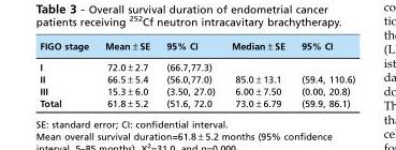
<table><thead><tr><td>FIGO stage</td><td>Mean±SE</td><td>95% CI</td><td>Median±SE</td><td>95% CI</td></tr></thead><tbody><tr><td>I</td><td>72.0±2.7</td><td>(66.7,77.3)</td><td></td><td></td></tr><tr><td>II</td><td>66.5±5.4</td><td>(56.0,77.0)</td><td>85.0±13.1</td><td>(59.4, 110.6)</td></tr><tr><td>III</td><td>15.3±6.0</td><td>(3.50, 27.0)</td><td>6.00±7.50</td><td>(0.00, 20.8)</td></tr><tr><td>Total</td><td>61.8±5.2</td><td>(51.6, 72.0</td><td>73.0±6.79</td><td>(59.9, 86.1)</td></tr></tbody></table>